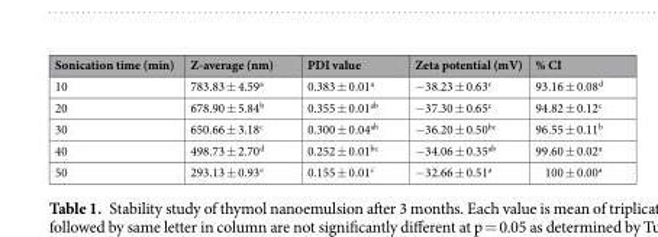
<table><thead><tr><td>Sonication time (min)</td><td>Z-average (nm)</td><td>PDI value</td><td>Zeta potential (mV)</td><td>% CI</td></tr></thead><tbody><tr><td>10</td><td>783.83 ± 4.59<sup>a</sup></td><td>0.383 ± 0.01<sup>a</sup></td><td>−38.23 ± 0.63<sup>c</sup></td><td>93.16 ± 0.08<sup>d</sup></td></tr><tr><td>20</td><td>678.90 ± 5.84<sup>b</sup></td><td>0.355 ± 0.01<sup>ab</sup></td><td>−37.30 ± 0.65<sup>c</sup></td><td>94.82 ± 0.12<sup>c</sup></td></tr><tr><td>30</td><td>650.66 ± 3.18<sup>c</sup></td><td>0.300 ± 0.04<sup>ab</sup></td><td>−36.20 ± 0.50<sup>bc</sup></td><td>96.55 ± 0.11<sup>b</sup></td></tr><tr><td>40</td><td>498.73 ± 2.70<sup>d</sup></td><td>0.252 ± 0.01<sup>bc</sup></td><td>−34.06 ± 0.35<sup>ab</sup></td><td>99.60 ± 0.02<sup>a</sup></td></tr><tr><td>50</td><td>293.13 ± 0.93<sup>e</sup></td><td>0.155 ± 0.01<sup>c</sup></td><td>−32.66 ± 0.51<sup>a</sup></td><td>100 ± 0.00<sup>a</sup></td></tr></tbody></table>